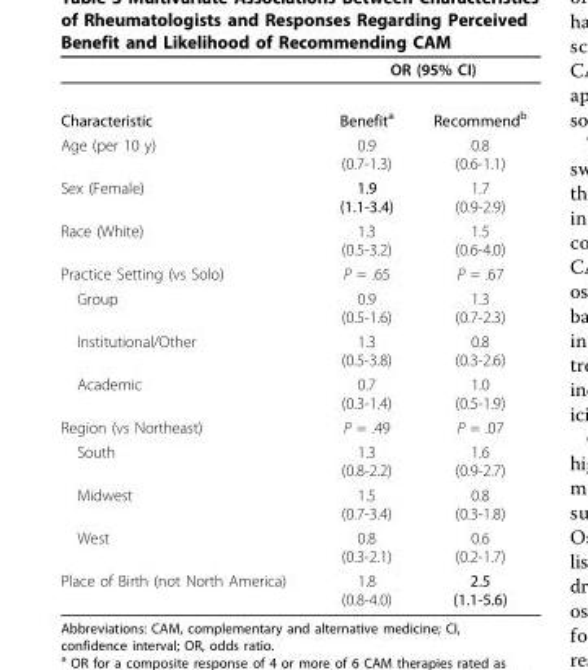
<table><thead><tr><td rowspan="2">Characteristic</td><td colspan="2">OR (95% CI)</td></tr><tr><td>Benefit<sup>a</sup></td><td>Recommend<sup>b</sup></td></tr></thead><tbody><tr><td>Age (per 10 y)</td><td>0.9 (0.7-1.3)</td><td>0.8 (0.6-1.1)</td></tr><tr><td>Sex (Female)</td><td>1.9 (1.1-3.4)</td><td>1.7 (0.9-2.9)</td></tr><tr><td>Race (White)</td><td>1.3 (0.5-3.2)</td><td>1.5 (0.6-4.0)</td></tr><tr><td>Practice Setting (vs Solo)</td><td>P = .65</td><td>P = .67</td></tr><tr><td>Group</td><td>0.9 (0.5-1.6)</td><td>1.3 (0.7-2.3)</td></tr><tr><td>Institutional/Other</td><td>1.3 (0.5-3.8)</td><td>0.8 (0.3-2.6)</td></tr><tr><td>Academic</td><td>0.7 (0.3-1.4)</td><td>1.0 (0.5-1.9)</td></tr><tr><td>Region (vs Northeast)</td><td>P = .49</td><td>P = .07</td></tr><tr><td>South</td><td>1.3 (0.8-2.2)</td><td>1.6 (0.9-2.7)</td></tr><tr><td>Midwest</td><td>1.5 (0.7-3.4)</td><td>0.8 (0.3-1.8)</td></tr><tr><td>West</td><td>0.8 (0.3-2.1)</td><td>0.6 (0.2-1.7)</td></tr><tr><td>Place of Birth (not North America)</td><td>1.8 (0.8-4.0)</td><td>2.5 (1.1-5.6)</td></tr></tbody></table>